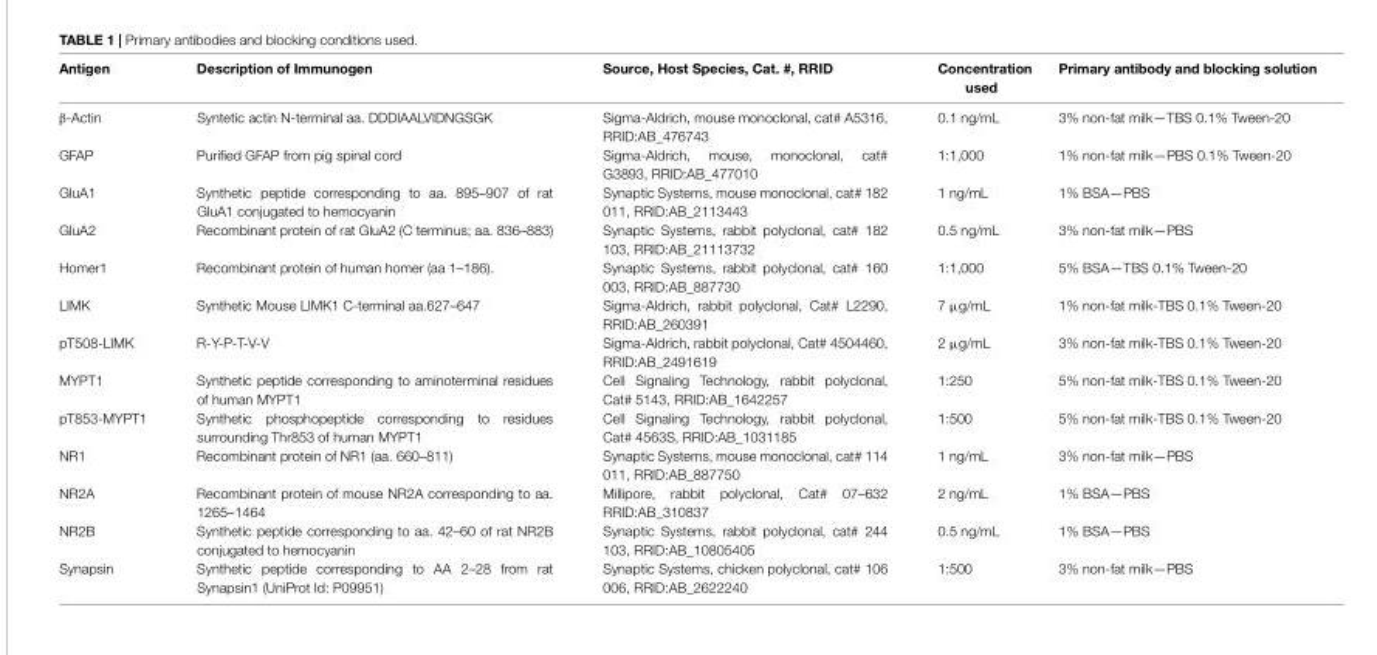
<table><thead><tr><td>Antigen</td><td>Description of Immunogen</td><td>Source, Host Species, Cat. #, RRID</td><td>Concentration used</td><td>Primary antibody and blocking solution</td></tr></thead><tbody><tr><td>β-Actin</td><td>Syntetic actin N-terminal aa. DDDIAALVIDNGSGK</td><td>Sigma-Aldrich, mouse monoclonal, cat# A5316, RRID:AB_476743</td><td>0.1 ng/mL</td><td>3% non-fat milk—TBS 0.1% Tween-20</td></tr><tr><td>GFAP</td><td>Purified GFAP from pig spinal cord</td><td>Sigma-Aldrich, mouse, monoclonal, cat# G3893, RRID:AB_477010</td><td>1:1,000</td><td>1% non-fat milk—PBS 0.1% Tween-20</td></tr><tr><td>GluA1</td><td>Synthetic peptide corresponding to aa. 895–907 of rat GluA1 conjugated to hemocyanin</td><td>Synaptic Systems, mouse monoclonal, cat# 182 011, RRID:AB_2113443</td><td>1 ng/mL</td><td>1% BSA—PBS</td></tr><tr><td>GluA2</td><td>Recombinant protein of rat GluA2 (C terminus; aa. 836–883)</td><td>Synaptic Systems, rabbit polyclonal, cat# 182 103, RRID:AB_21113732</td><td>0.5 ng/mL</td><td>3% non-fat milk—PBS</td></tr><tr><td>Homer1</td><td>Recombinant protein of human homer (aa 1–186).</td><td>Synaptic Systems, rabbit polyclonal, cat# 160 003, RRID:AB_887730</td><td>1:1,000</td><td>5% BSA—TBS 0.1% Tween-20</td></tr><tr><td>LIMK</td><td>Synthetic Mouse LIMK1 C-terminal aa.627–647</td><td>Sigma-Aldrich, rabbit polyclonal, Cat# L2290, RRID:AB_260391</td><td>7 µg/mL</td><td>1% non-fat milk-TBS 0.1% Tween-20</td></tr><tr><td>pT508-LIMK</td><td>R-Y-P-T-V-V</td><td>Sigma-Aldrich, rabbit polyclonal, Cat# 4504460, RRID:AB_2491619</td><td>2 µg/mL</td><td>3% non-fat milk-TBS 0.1% Tween-20</td></tr><tr><td>MYPT1</td><td>Synthetic peptide corresponding to aminoterminal residues of human MYPT1</td><td>Cell Signaling Technology, rabbit polyclonal, Cat# 5143, RRID:AB_1642257</td><td>1:250</td><td>5% non-fat milk-TBS 0.1% Tween-20</td></tr><tr><td>pT853-MYPT1</td><td>Synthetic phosphopeptide corresponding to residues surrounding Thr853 of human MYPT1</td><td>Cell Signaling Technology, rabbit polyclonal, Cat# 4563S, RRID:AB_1031185</td><td>1:500</td><td>5% non-fat milk-TBS 0.1% Tween-20</td></tr><tr><td>NR1</td><td>Recombinant protein of NR1 (aa. 660–811)</td><td>Synaptic Systems, mouse monoclonal, cat# 114 011, RRID:AB_887750</td><td>1 ng/mL</td><td>3% non-fat milk—PBS</td></tr><tr><td>NR2A</td><td>Recombinant protein of mouse NR2A corresponding to aa. 1265–1464</td><td>Millipore, rabbit polyclonal, Cat# 07–632 RRID:AB_310837</td><td>2 ng/mL</td><td>1% BSA—PBS</td></tr><tr><td>NR2B</td><td>Synthetic peptide corresponding to aa. 42–60 of rat NR2B conjugated to hemocyanin</td><td>Synaptic Systems, rabbit polyclonal, cat# 244 103, RRID:AB_10805405</td><td>0.5 ng/mL</td><td>1% BSA—PBS</td></tr><tr><td>Synapsin</td><td>Synthetic peptide corresponding to AA 2–28 from rat Synapsin1 (UniProt Id: P09951)</td><td>Synaptic Systems, chicken polyclonal, cat# 106 006, RRID:AB_2622240</td><td>1:500</td><td>3% non-fat milk—PBS</td></tr></tbody></table>